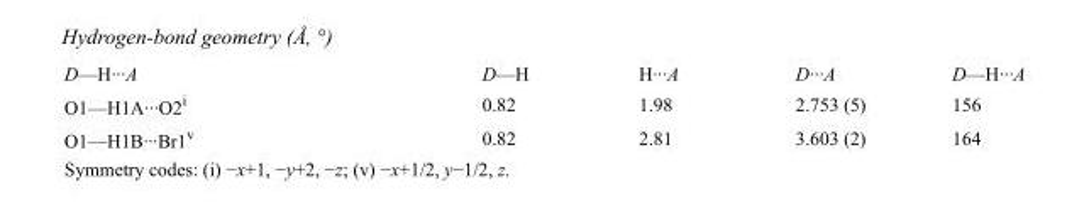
<table><tbody><tr><td>D—H···A</td><td>D—H</td><td>H···A</td><td>D···A</td><td>D—H···A</td></tr><tr><td>O1—H1A···O2<sup>i</sup></td><td>0.82</td><td>1.98</td><td>2.753 (5)</td><td>156</td></tr><tr><td>O1—H1B···Br1<sup>v</sup></td><td>0.82</td><td>2.81</td><td>3.603 (2)</td><td>164</td></tr></tbody></table>